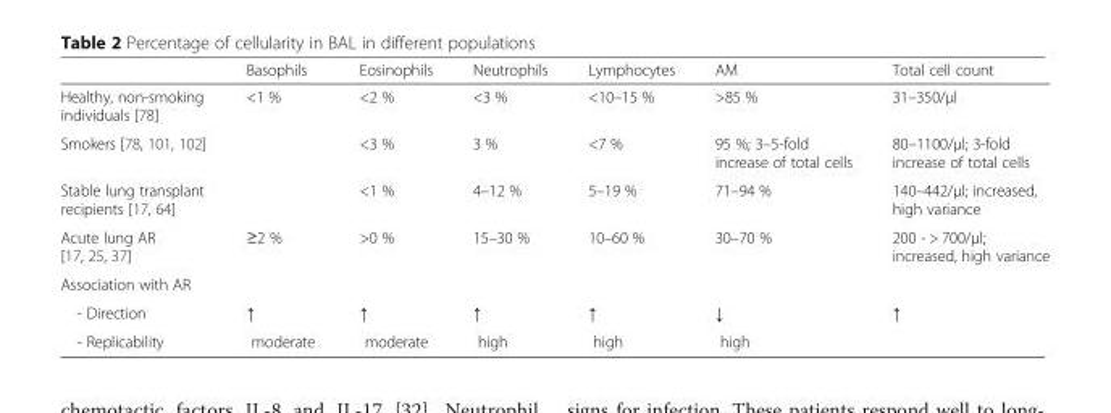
<table><thead><tr><td></td><td>Basophils</td><td>Eosinophils</td><td>Neutrophils</td><td>Lymphocytes</td><td>AM</td><td>Total cell count</td></tr></thead><tbody><tr><td>Healthy, non-smoking individuals [78]</td><td>&lt;1 %</td><td>&lt;2 %</td><td>&lt;3 %</td><td>&lt;10–15 %</td><td>&gt;85 %</td><td>31–350/μl</td></tr><tr><td>Smokers [78, 101, 102]</td><td></td><td>&lt;3 %</td><td>3 %</td><td>&lt;7 %</td><td>95 %; 3–5-fold increase of total cells</td><td>80–1100/μl; 3-fold increase of total cells</td></tr><tr><td>Stable lung transplant recipients [17, 64]</td><td></td><td>&lt;1 %</td><td>4–12 %</td><td>5–19 %</td><td>71–94 %</td><td>140–442/μl; increased, high variance</td></tr><tr><td>Acute lung AR [17, 25, 37]</td><td>≥2 %</td><td>&gt;0 %</td><td>15–30 %</td><td>10–60 %</td><td>30–70 %</td><td>200 - &gt; 700/μl; increased, high variance</td></tr><tr><td colspan="7">Association with AR</td></tr><tr><td>- Direction</td><td>↑</td><td>↑</td><td>↑</td><td>↑</td><td>↓</td><td>↑</td></tr><tr><td>- Replicability</td><td>moderate</td><td>moderate</td><td>high</td><td>high</td><td>high</td><td></td></tr></tbody></table>